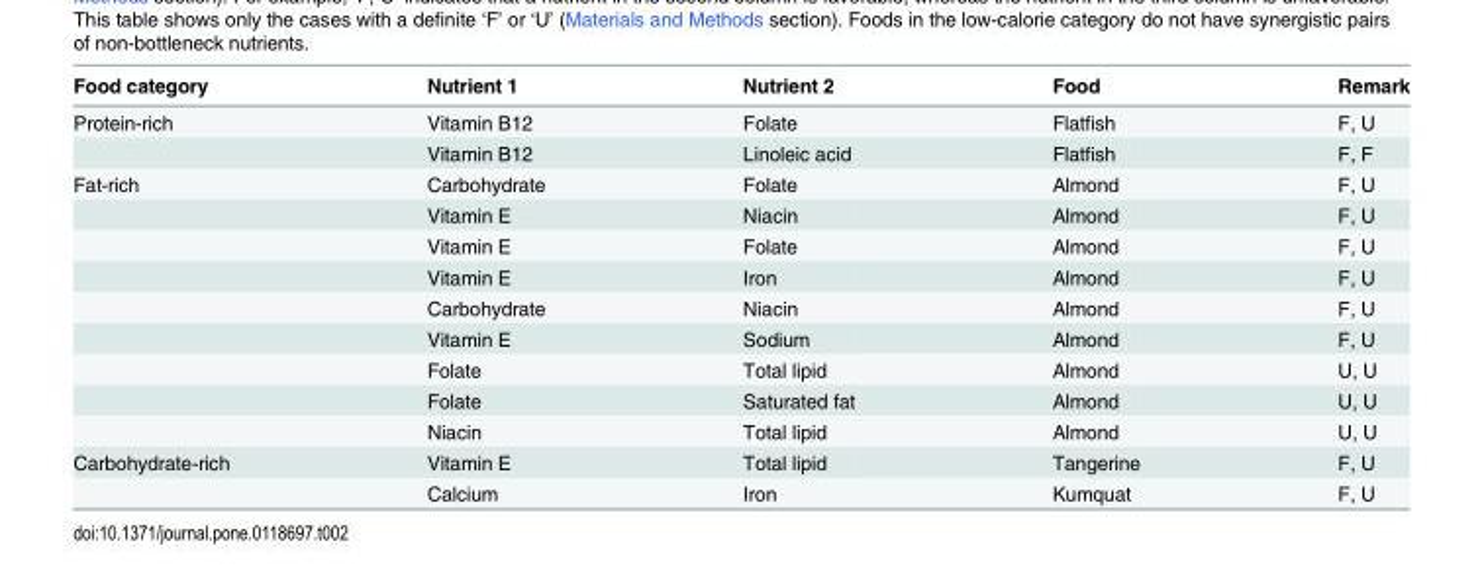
<table><thead><tr><td>Food category</td><td>Nutrient 1</td><td>Nutrient 2</td><td>Food</td><td>Remark</td></tr></thead><tbody><tr><td rowspan="2">Protein-rich</td><td>Vitamin B12</td><td>Folate</td><td>Flatfish</td><td>F, U</td></tr><tr><td>Vitamin B12</td><td>Linoleic acid</td><td>Flatfish</td><td>F, F</td></tr><tr><td rowspan="9">Fat-rich</td><td>Carbohydrate</td><td>Folate</td><td>Almond</td><td>F, U</td></tr><tr><td>Vitamin E</td><td>Niacin</td><td>Almond</td><td>F, U</td></tr><tr><td>Vitamin E</td><td>Folate</td><td>Almond</td><td>F, U</td></tr><tr><td>Vitamin E</td><td>Iron</td><td>Almond</td><td>F, U</td></tr><tr><td>Carbohydrate</td><td>Niacin</td><td>Almond</td><td>F, U</td></tr><tr><td>Vitamin E</td><td>Sodium</td><td>Almond</td><td>F, U</td></tr><tr><td>Folate</td><td>Total lipid</td><td>Almond</td><td>U, U</td></tr><tr><td>Folate</td><td>Saturated fat</td><td>Almond</td><td>U, U</td></tr><tr><td>Niacin</td><td>Total lipid</td><td>Almond</td><td>U, U</td></tr><tr><td rowspan="2">Carbohydrate-rich</td><td>Vitamin E</td><td>Total lipid</td><td>Tangerine</td><td>F, U</td></tr><tr><td>Calcium</td><td>Iron</td><td>Kumquat</td><td>F, U</td></tr></tbody></table>